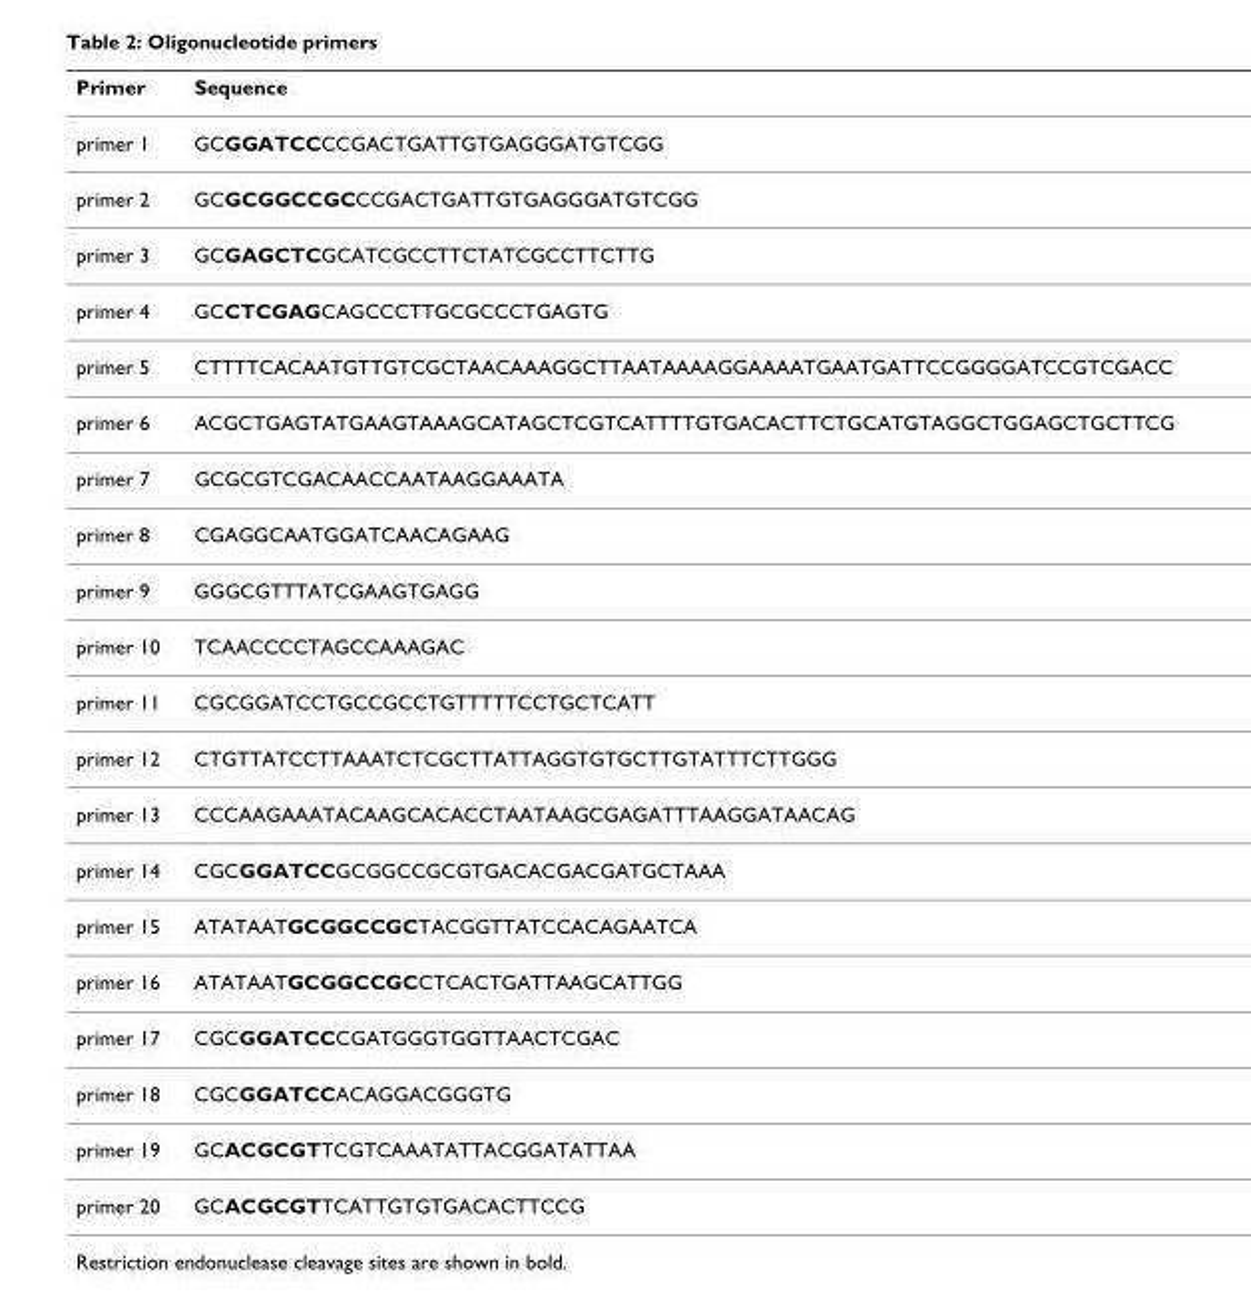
<table><thead><tr><td>Primer</td><td>Sequence</td></tr></thead><tbody><tr><td>primer 1</td><td>GCGGATCCCCGACTGATTGTGAGGGATGTCGG</td></tr><tr><td>primer 2</td><td>GCGCGGCCGCCCGACTGATTGTGAGGGATGTCGG</td></tr><tr><td>primer 3</td><td>GCGAGCTCGCATCGCCTTCTATCGCCTTCTTG</td></tr><tr><td>primer 4</td><td>GCCTCGAGCAGCCCTTGCGCCCTGAGTG</td></tr><tr><td>primer 5</td><td>CTTTTCACAATGTTGTCGCTAACAAAGGCTTAATAAAAGGAAAATGAATGATTCCGGGGATCCGTCGACC</td></tr><tr><td>primer 6</td><td>ACGCTGAGTATGAAGTAAAGCATAGCTCGTCATTTTGTGACACTTCTGCATGTAGGCTGGAGCTGCTTCG</td></tr><tr><td>primer 7</td><td>GCGCGTCGACAACCAATAAGGAAATA</td></tr><tr><td>primer 8</td><td>CGAGGCAATGGATCAACAGAAG</td></tr><tr><td>primer 9</td><td>GGGCGTTTATCGAAGTGAGG</td></tr><tr><td>primer 10</td><td>TCAACCCCTAGCCAAAGAC</td></tr><tr><td>primer 11</td><td>CGCGGATCCTGCCGCCTGTTTTTCCTGCTCATT</td></tr><tr><td>primer 12</td><td>CTGTTATCCTTAAATCTCGCTTATTAGGTGTGCTTGTATTTCTTGGG</td></tr><tr><td>primer 13</td><td>CCCAAGAAATACAAGCACACCTAATAAGCGAGATTTAAGGATAACAG</td></tr><tr><td>primer 14</td><td>CGCGGATCCGCGGCCGCGTGACACGACGATGCTAAA</td></tr><tr><td>primer 15</td><td>ATATAATGCGGCCGCTACGGTTATCCACAGAATCA</td></tr><tr><td>primer 16</td><td>ATATAATGCGGCCGCCTCACTGATTAAGCATTGG</td></tr><tr><td>primer 17</td><td>CGCGGATCCCGATGGGTGGTTAACTCGAC</td></tr><tr><td>primer 18</td><td>CGCGGATCCACAGGACGGGTG</td></tr><tr><td>primer 19</td><td>GCACGCGTTCGTCAAATATTACGGATATTAA</td></tr><tr><td>primer 20</td><td>GCACGCGTTCATTGTGTGACACTTCCG</td></tr></tbody></table>